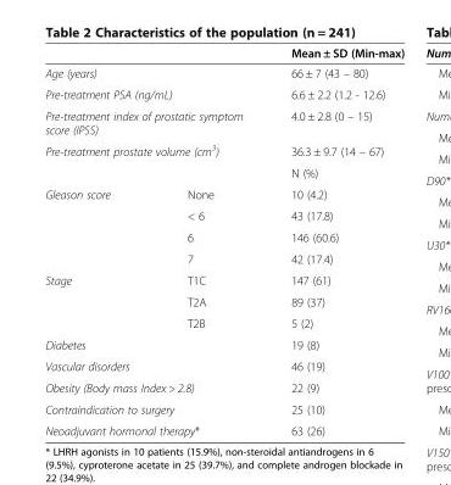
<table><thead><tr><td></td><td></td><td>Mean ± SD (Min-max)</td></tr></thead><tbody><tr><td colspan="2">Age (years)</td><td>66 ± 7 (43 – 80)</td></tr><tr><td colspan="2">Pre-treatment PSA (ng/mL)</td><td>6.6 ± 2.2 (1.2 - 12.6)</td></tr><tr><td colspan="2">Pre-treatment index of prostatic symptom score (IPSS)</td><td>4.0 ± 2.8 (0 – 15)</td></tr><tr><td rowspan="2" colspan="2">Pre-treatment prostate volume (cm<sup>3</sup>)</td><td>36.3 ± 9.7 (14 – 67)</td></tr><tr><td>N (%)</td></tr><tr><td rowspan="4">Gleason score</td><td>None</td><td>10 (4.2)</td></tr><tr><td>&lt; 6</td><td>43 (17.8)</td></tr><tr><td>6</td><td>146 (60.6)</td></tr><tr><td>7</td><td>42 (17.4)</td></tr><tr><td rowspan="3">Stage</td><td>T1C</td><td>147 (61)</td></tr><tr><td>T2A</td><td>89 (37)</td></tr><tr><td>T2B</td><td>5 (2)</td></tr><tr><td colspan="2">Diabetes</td><td>19 (8)</td></tr><tr><td colspan="2">Vascular disorders</td><td>46 (19)</td></tr><tr><td colspan="2">Obesity (Body mass Index &gt; 2.8)</td><td>22 (9)</td></tr><tr><td colspan="2">Contraindication to surgery</td><td>25 (10)</td></tr><tr><td colspan="2">Neoadjuvant hormonal therapy*</td><td>63 (26)</td></tr></tbody></table>